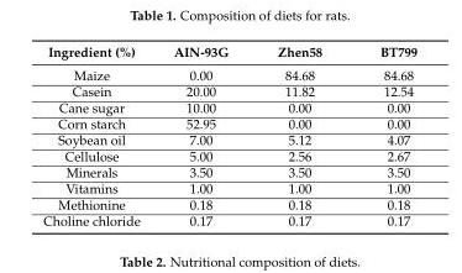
<table><thead><tr><td>Ingredient (%)</td><td>AIN-93G</td><td>Zhen58</td><td>BT799</td></tr></thead><tbody><tr><td>Maize</td><td>0.00</td><td>84.68</td><td>84.68</td></tr><tr><td>Casein</td><td>20.00</td><td>11.82</td><td>12.54</td></tr><tr><td>Cane sugar</td><td>10.00</td><td>0.00</td><td>0.00</td></tr><tr><td>Corn starch</td><td>52.95</td><td>0.00</td><td>0.00</td></tr><tr><td>Soybean oil</td><td>7.00</td><td>5.12</td><td>4.07</td></tr><tr><td>Cellulose</td><td>5.00</td><td>2.56</td><td>2.67</td></tr><tr><td>Minerals</td><td>3.50</td><td>3.50</td><td>3.50</td></tr><tr><td>Vitamins</td><td>1.00</td><td>1.00</td><td>1.00</td></tr><tr><td>Methionine</td><td>0.18</td><td>0.18</td><td>0.18</td></tr><tr><td>Choline chloride</td><td>0.17</td><td>0.17</td><td>0.17</td></tr></tbody></table>